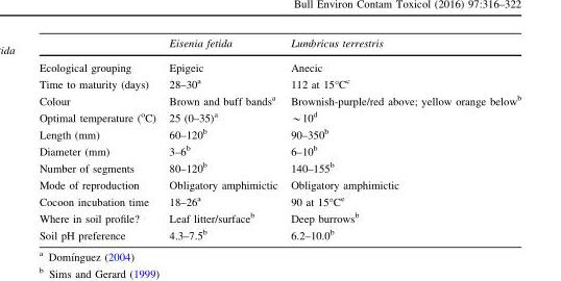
<table><thead><tr><td></td><td>Eisenia fetida</td><td>Lumbricus terrestris</td></tr></thead><tbody><tr><td>Ecological grouping</td><td>Epigeic</td><td>Anecic</td></tr><tr><td>Time to maturity (days)</td><td>28–30<sup>a</sup></td><td>112 at 15°C<sup>c</sup></td></tr><tr><td>Colour</td><td>Brown and buff bands<sup>a</sup></td><td>Brownish-purple/red above; yellow orange below<sup>b</sup></td></tr><tr><td>Optimal temperature (<sup>o</sup>C)</td><td>25 (0–35)<sup>a</sup></td><td>*10d</td></tr><tr><td>Length (mm)</td><td>60–120<sup>b</sup></td><td>90–350<sup>b</sup></td></tr><tr><td>Diameter (mm)</td><td>3–6<sup>b</sup></td><td>6–10<sup>b</sup></td></tr><tr><td>Number of segments</td><td>80–120<sup>b</sup></td><td>140–155<sup>b</sup></td></tr><tr><td>Mode of reproduction</td><td>Obligatory amphimictic</td><td>Obligatory amphimictic</td></tr><tr><td>Cocoon incubation time</td><td>18–26<sup>a</sup></td><td>90 at 15°C<sup>e</sup></td></tr><tr><td>Where in soil profile?</td><td>Leaf litter/surface<sup>b</sup></td><td>Deep burrows<sup>b</sup></td></tr><tr><td>Soil pH preference</td><td>4.3–7.5<sup>b</sup></td><td>6.2–10.0<sup>b</sup></td></tr></tbody></table>